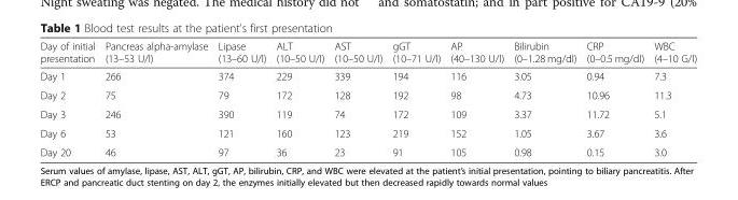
<table><thead><tr><td>Day of initial presentation</td><td>Pancreas alpha-amylase (13–53 U/l)</td><td>Lipase (13–60 U/l)</td><td>ALT (10–50 U/l)</td><td>AST (10–50 U/l)</td><td>gGT (10–71 U/l)</td><td>AP (40–130 U/l)</td><td>Bilirubin (0–1.28 mg/dl)</td><td>CRP (0–0.5 mg/dl)</td><td>WBC (4–10 G/l)</td></tr></thead><tbody><tr><td>Day 1</td><td>266</td><td>374</td><td>229</td><td>339</td><td>194</td><td>116</td><td>3.05</td><td>0.94</td><td>7.3</td></tr><tr><td>Day 2</td><td>75</td><td>79</td><td>172</td><td>128</td><td>192</td><td>98</td><td>4.73</td><td>10.96</td><td>11.3</td></tr><tr><td>Day 3</td><td>246</td><td>390</td><td>119</td><td>74</td><td>172</td><td>109</td><td>3.37</td><td>11.72</td><td>5.1</td></tr><tr><td>Day 6</td><td>53</td><td>121</td><td>160</td><td>123</td><td>219</td><td>152</td><td>1.05</td><td>3.67</td><td>3.6</td></tr><tr><td>Day 20</td><td>46</td><td>97</td><td>36</td><td>23</td><td>91</td><td>105</td><td>0.98</td><td>0.15</td><td>3.0</td></tr></tbody></table>